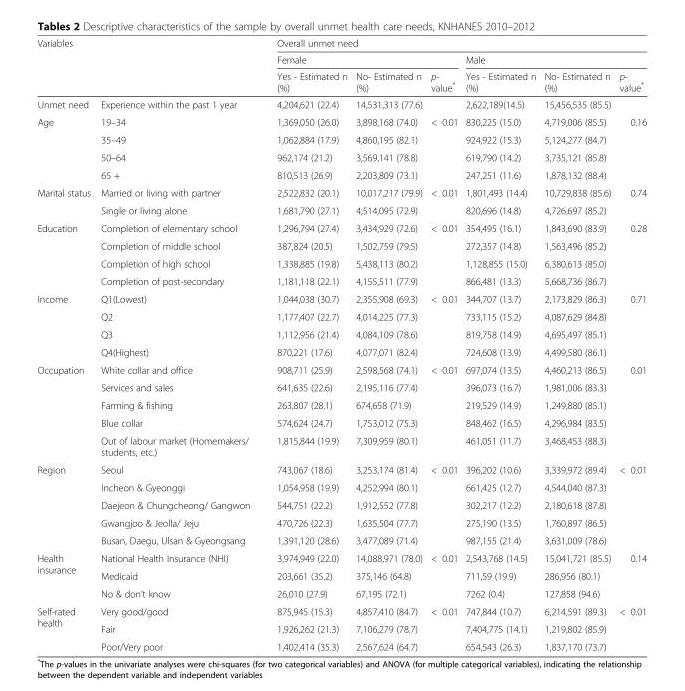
<table><thead><tr><td rowspan="3" colspan="2">Variables</td><td colspan="6">Overall unmet need</td></tr><tr><td colspan="3">Female</td><td colspan="3">Male</td></tr><tr><td rowspan="2">Yes - Estimated n (%) 4,204,621 (22.4)</td><td rowspan="2">No- Estimated n (%) 14,531,313 (77.6)</td><td rowspan="2">p- value*</td><td rowspan="2">Yes - Estimated n (%) 2,622,189(14.5)</td><td rowspan="2">No- Estimated n (%) 15,456,535 (85.5)</td><td rowspan="2">p- value*</td></tr><tr><td>Unmet need</td><td>Experience within the past 1 year</td></tr></thead><tbody><tr><td rowspan="4">Age</td><td>19–34</td><td>1,369,050 (26.0)</td><td>3,898,168 (74.0)</td><td rowspan="4">&lt; 0.01</td><td>830,225 (15.0)</td><td>4,719,006 (85.5)</td><td rowspan="4">0.16</td></tr><tr><td>35–49</td><td>1,062,884 (17.9)</td><td>4,860,195 (82.1)</td><td>924,922 (15.3)</td><td>5,124,277 (84.7)</td></tr><tr><td>50–64</td><td>962,174 (21.2)</td><td>3,569,141 (78.8)</td><td>619,790 (14.2)</td><td>3,735,121 (85.8)</td></tr><tr><td>65 +</td><td>810,513 (26.9)</td><td>2,203,809 (73.1)</td><td>247,251 (11.6)</td><td>1,878,132 (88.4)</td></tr><tr><td rowspan="2">Marital status</td><td>Married or living with partner</td><td>2,522,832 (20.1)</td><td>10,017,217 (79.9)</td><td rowspan="2">&lt; 0.01</td><td>1,801,493 (14.4)</td><td>10,729,838 (85.6)</td><td rowspan="2">0.74</td></tr><tr><td>Single or living alone</td><td>1,681,790 (27.1)</td><td>4,514,095 (72.9)</td><td>820,696 (14.8)</td><td>4,726,697 (85.2)</td></tr><tr><td rowspan="4">Education</td><td>Completion of elementary school</td><td>1,296,794 (27.4)</td><td>3,434,929 (72.6)</td><td rowspan="4">&lt; 0.01</td><td>354,495 (16.1)</td><td>1,843,690 (83.9)</td><td rowspan="4">0.28</td></tr><tr><td>Completion of middle school</td><td>387,824 (20.5)</td><td>1,502,759 (79.5)</td><td>272,357 (14.8)</td><td>1,563,496 (85.2)</td></tr><tr><td>Completion of high school</td><td>1,338,885 (19.8)</td><td>5,438,113 (80.2)</td><td>1,128,855 (15.0)</td><td>6,380,613 (85.0)</td></tr><tr><td>Completion of post-secondary</td><td>1,181,118 (22.1)</td><td>4,155,511 (77.9)</td><td>866,481 (13.3)</td><td>5,668,736 (86.7)</td></tr><tr><td rowspan="4">Income</td><td>Q1(Lowest)</td><td>1,044,038 (30.7)</td><td>2,355,908 (69.3)</td><td rowspan="4">&lt; 0.01</td><td>344,707 (13.7)</td><td>2,173,829 (86.3)</td><td rowspan="4">0.71</td></tr><tr><td>Q2</td><td>1,177,407 (22.7)</td><td>4,014,225 (77.3)</td><td>733,115 (15.2)</td><td>4,087,629 (84.8)</td></tr><tr><td>Q3</td><td>1,112,956 (21.4)</td><td>4,084,109 (78.6)</td><td>819,758 (14.9)</td><td>4,695,497 (85.1)</td></tr><tr><td>Q4(Highest)</td><td>870,221 (17.6)</td><td>4,077,071 (82.4)</td><td>724,608 (13.9)</td><td>4,499,580 (86.1)</td></tr><tr><td rowspan="5">Occupation</td><td>White collar and office</td><td>908,711 (25.9)</td><td>2,598,568 (74.1)</td><td rowspan="5">&lt; 0.01</td><td>697,074 (13.5)</td><td>4,460,213 (86.5)</td><td rowspan="5">0.01</td></tr><tr><td>Services and sales</td><td>641,635 (22.6)</td><td>2,195,116 (77.4)</td><td>396,073 (16.7)</td><td>1,981,006 (83.3)</td></tr><tr><td>Farming &amp; fishing</td><td>263,807 (28.1)</td><td>674,658 (71.9)</td><td>219,529 (14.9)</td><td>1,249,880 (85.1)</td></tr><tr><td>Blue collar</td><td>574,624 (24.7)</td><td>1,753,012 (75.3)</td><td>848,462 (16.5)</td><td>4,296,984 (83.5)</td></tr><tr><td>Out of labour market (Homemakers/ students, etc.)</td><td>1,815,844 (19.9)</td><td>7,309,959 (80.1)</td><td>461,051 (11.7)</td><td>3,468,453 (88.3)</td></tr><tr><td rowspan="5">Region</td><td>Seoul</td><td>743,067 (18.6)</td><td>3,253,174 (81.4)</td><td rowspan="5">&lt; 0.01</td><td>396,202 (10.6)</td><td>3,339,972 (89.4)</td><td rowspan="5">&lt; 0.01</td></tr><tr><td>Incheon &amp; Gyeonggi</td><td>1,054,958 (19.9)</td><td>4,252,994 (80.1)</td><td>661,425 (12.7)</td><td>4,544,040 (87.3)</td></tr><tr><td>Daejeon &amp; Chungcheong/ Gangwon</td><td>544,751 (22.2)</td><td>1,912,552 (77.8)</td><td>302,217 (12.2)</td><td>2,180,618 (87.8)</td></tr><tr><td>Gwangjoo &amp; Jeolla/ Jeju</td><td>470,726 (22.3)</td><td>1,635,504 (77.7)</td><td>275,190 (13.5)</td><td>1,760,897 (86.5)</td></tr><tr><td>Busan, Daegu, Ulsan &amp; Gyeongsang</td><td>1,391,120 (28.6)</td><td>3,477,089 (71.4)</td><td>987,155 (21.4)</td><td>3,631,009 (78.6)</td></tr><tr><td rowspan="3">Health insurance</td><td>National Health Insurance (NHI)</td><td>3,974,949 (22.0)</td><td>14,088,971 (78.0)</td><td rowspan="3">&lt; 0.01</td><td>2,543,768 (14.5)</td><td>15,041,721 (85.5)</td><td rowspan="3">0.14</td></tr><tr><td>Medicaid</td><td>203,661 (35.2)</td><td>375,146 (64.8)</td><td>711,59 (19.9)</td><td>286,956 (80.1)</td></tr><tr><td>No &amp; don’t know</td><td>26,010 (27.9)</td><td>67,195 (72.1)</td><td>7262 (0.4)</td><td>127,858 (94.6)</td></tr><tr><td rowspan="3">Self-rated health</td><td>Very good/good</td><td>875,945 (15.3)</td><td>4,857,410 (84.7)</td><td rowspan="3">&lt; 0.01</td><td>747,844 (10.7)</td><td>6,214,591 (89.3)</td><td rowspan="3">&lt; 0.01</td></tr><tr><td>Fair</td><td>1,926,262 (21.3)</td><td>7,106,279 (78.7)</td><td>7,404,775 (14.1)</td><td>1,219,802 (85.9)</td></tr><tr><td>Poor/Very poor</td><td>1,402,414 (35.3)</td><td>2,567,624 (64.7)</td><td>654,543 (26.3)</td><td>1,837,170 (73.7)</td></tr></tbody></table>